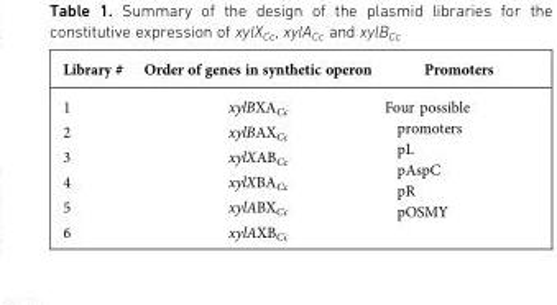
<table><thead><tr><td>Library #</td><td>Order of genes in synthetic operon</td><td>Promoters</td></tr></thead><tbody><tr><td>1</td><td>xylBXA<sub>Cc</sub></td><td rowspan="6">Four possible promoters pL pAspC pR pOSMY</td></tr><tr><td>2</td><td>xylBAX<sub>Cc</sub></td></tr><tr><td>3</td><td>xylXAB<sub>Cc</sub></td></tr><tr><td>4</td><td>xylXBA<sub>Cc</sub></td></tr><tr><td>5</td><td>xylABX<sub>Cc</sub></td></tr><tr><td>6</td><td>xylAXB<sub>Cc</sub></td></tr></tbody></table>